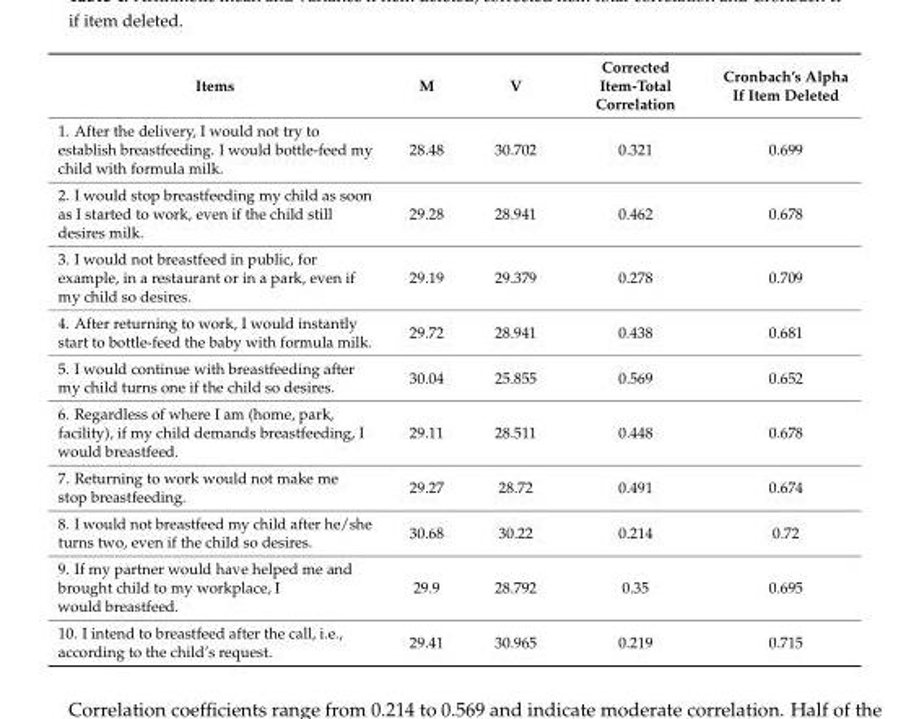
<table><thead><tr><td>Items</td><td>M</td><td>V</td><td>Corrected Item-Total Correlation</td><td>Cronbach’s Alpha If Item Deleted</td></tr></thead><tbody><tr><td>1. After the delivery, I would not try to establish breastfeeding. I would bottle-feed my child with formula milk.</td><td>28.48</td><td>30.702</td><td>0.321</td><td>0.699</td></tr><tr><td>2. I would stop breastfeeding my child as soon as I started to work, even if the child still desires milk.</td><td>29.28</td><td>28.941</td><td>0.462</td><td>0.678</td></tr><tr><td>3. I would not breastfeed in public, for example, in a restaurant or in a park, even if my child so desires.</td><td>29.19</td><td>29.379</td><td>0.278</td><td>0.709</td></tr><tr><td>4. After returning to work, I would instantly start to bottle-feed the baby with formula milk.</td><td>29.72</td><td>28.941</td><td>0.438</td><td>0.681</td></tr><tr><td>5. I would continue with breastfeeding after my child turns one if the child so desires.</td><td>30.04</td><td>25.855</td><td>0.569</td><td>0.652</td></tr><tr><td>6. Regardless of where I am (home, park, facility), if my child demands breastfeeding, I would breastfeed.</td><td>29.11</td><td>28.511</td><td>0.448</td><td>0.678</td></tr><tr><td>7. Returning to work would not make me stop breastfeeding.</td><td>29.27</td><td>28.72</td><td>0.491</td><td>0.674</td></tr><tr><td>8. I would not breastfeed my child after he/she turns two, even if the child so desires.</td><td>30.68</td><td>30.22</td><td>0.214</td><td>0.72</td></tr><tr><td>9. If my partner would have helped me and brought child to my workplace, I would breastfeed.</td><td>29.9</td><td>28.792</td><td>0.35</td><td>0.695</td></tr><tr><td>10. I intend to breastfeed after the call, i.e., according to the child’s request.</td><td>29.41</td><td>30.965</td><td>0.219</td><td>0.715</td></tr></tbody></table>